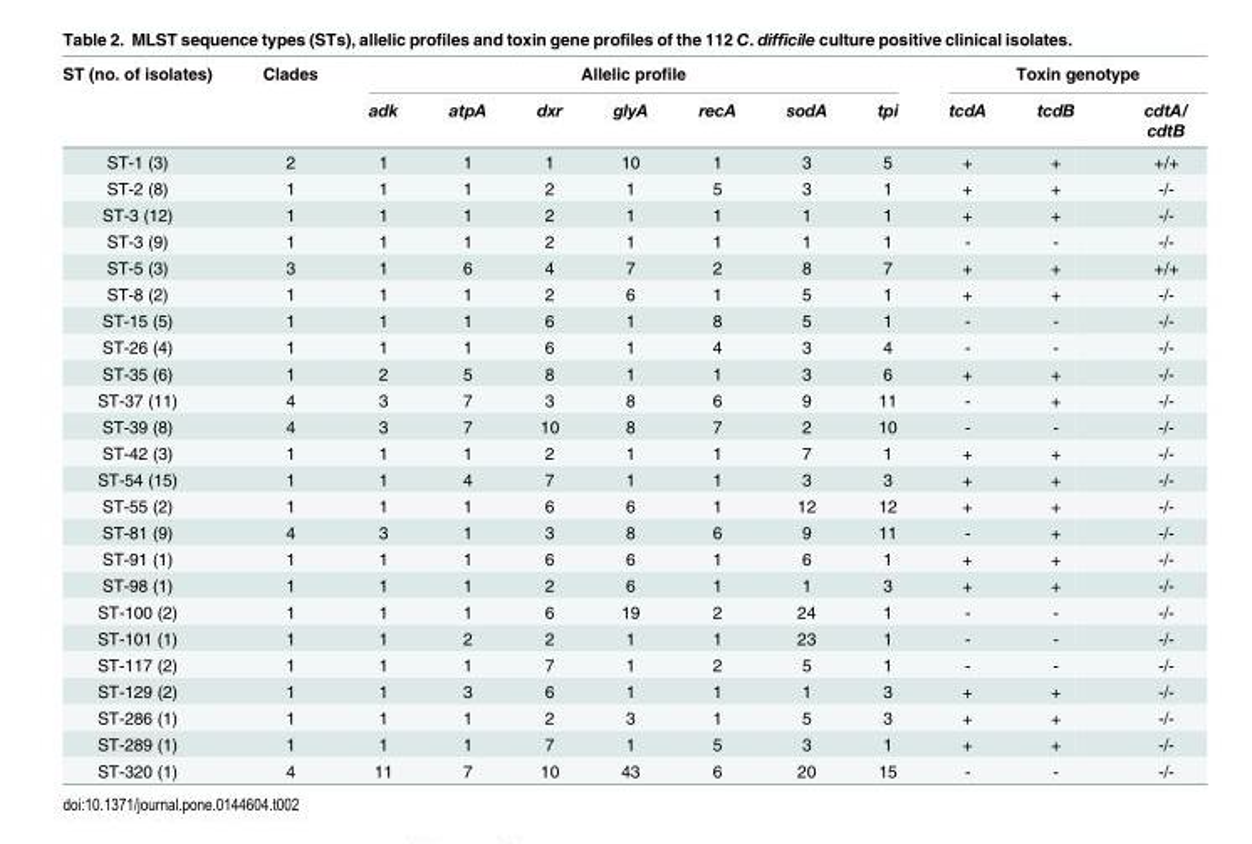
<table><thead><tr><td rowspan="2">ST (no. of isolates)</td><td rowspan="2">Clades</td><td colspan="7">Allelic profile</td><td colspan="3">Toxin genotype</td></tr><tr><td>adk</td><td>atpA</td><td>dxr</td><td>glyA</td><td>recA</td><td>sodA</td><td>tpi</td><td>tcdA</td><td>tcdB</td><td>cdtA/ cdtB</td></tr></thead><tbody><tr><td>ST-1 (3)</td><td>2</td><td>1</td><td>1</td><td>1</td><td>10</td><td>1</td><td>3</td><td>5</td><td>+</td><td>+</td><td>+/+</td></tr><tr><td>ST-2 (8)</td><td>1</td><td>1</td><td>1</td><td>2</td><td>1</td><td>5</td><td>3</td><td>1</td><td>+</td><td>+</td><td>-/-</td></tr><tr><td>ST-3 (12)</td><td>1</td><td>1</td><td>1</td><td>2</td><td>1</td><td>1</td><td>1</td><td>1</td><td>+</td><td>+</td><td>-/-</td></tr><tr><td>ST-3 (9)</td><td>1</td><td>1</td><td>1</td><td>2</td><td>1</td><td>1</td><td>1</td><td>1</td><td>-</td><td>-</td><td>-/-</td></tr><tr><td>ST-5 (3)</td><td>3</td><td>1</td><td>6</td><td>4</td><td>7</td><td>2</td><td>8</td><td>7</td><td>+</td><td>+</td><td>+/+</td></tr><tr><td>ST-8 (2)</td><td>1</td><td>1</td><td>1</td><td>2</td><td>6</td><td>1</td><td>5</td><td>1</td><td>+</td><td>+</td><td>-/-</td></tr><tr><td>ST-15 (5)</td><td>1</td><td>1</td><td>1</td><td>6</td><td>1</td><td>8</td><td>5</td><td>1</td><td>-</td><td>-</td><td>-/-</td></tr><tr><td>ST-26 (4)</td><td>1</td><td>1</td><td>1</td><td>6</td><td>1</td><td>4</td><td>3</td><td>4</td><td>-</td><td>-</td><td>-/-</td></tr><tr><td>ST-35 (6)</td><td>1</td><td>2</td><td>5</td><td>8</td><td>1</td><td>1</td><td>3</td><td>6</td><td>+</td><td>+</td><td>-/-</td></tr><tr><td>ST-37 (11)</td><td>4</td><td>3</td><td>7</td><td>3</td><td>8</td><td>6</td><td>9</td><td>11</td><td>-</td><td>+</td><td>-/-</td></tr><tr><td>ST-39 (8)</td><td>4</td><td>3</td><td>7</td><td>10</td><td>8</td><td>7</td><td>2</td><td>10</td><td>-</td><td>-</td><td>-/-</td></tr><tr><td>ST-42 (3)</td><td>1</td><td>1</td><td>1</td><td>2</td><td>1</td><td>1</td><td>7</td><td>1</td><td>+</td><td>+</td><td>-/-</td></tr><tr><td>ST-54 (15)</td><td>1</td><td>1</td><td>4</td><td>7</td><td>1</td><td>1</td><td>3</td><td>3</td><td>+</td><td>+</td><td>-/-</td></tr><tr><td>ST-55 (2)</td><td>1</td><td>1</td><td>1</td><td>6</td><td>6</td><td>1</td><td>12</td><td>12</td><td>+</td><td>+</td><td>-/-</td></tr><tr><td>ST-81 (9)</td><td>4</td><td>3</td><td>1</td><td>3</td><td>8</td><td>6</td><td>9</td><td>11</td><td>-</td><td>+</td><td>-/-</td></tr><tr><td>ST-91 (1)</td><td>1</td><td>1</td><td>1</td><td>6</td><td>6</td><td>1</td><td>6</td><td>1</td><td>+</td><td>+</td><td>-/-</td></tr><tr><td>ST-98 (1)</td><td>1</td><td>1</td><td>1</td><td>2</td><td>6</td><td>1</td><td>1</td><td>3</td><td>+</td><td>+</td><td>-/-</td></tr><tr><td>ST-100 (2)</td><td>1</td><td>1</td><td>1</td><td>6</td><td>19</td><td>2</td><td>24</td><td>1</td><td>-</td><td>-</td><td>-/-</td></tr><tr><td>ST-101 (1)</td><td>1</td><td>1</td><td>2</td><td>2</td><td>1</td><td>1</td><td>23</td><td>1</td><td>-</td><td>-</td><td>-/-</td></tr><tr><td>ST-117 (2)</td><td>1</td><td>1</td><td>1</td><td>7</td><td>1</td><td>2</td><td>5</td><td>1</td><td>-</td><td>-</td><td>-/-</td></tr><tr><td>ST-129 (2)</td><td>1</td><td>1</td><td>3</td><td>6</td><td>1</td><td>1</td><td>1</td><td>3</td><td>+</td><td>+</td><td>-/-</td></tr><tr><td>ST-286 (1)</td><td>1</td><td>1</td><td>1</td><td>2</td><td>3</td><td>1</td><td>5</td><td>3</td><td>+</td><td>+</td><td>-/-</td></tr><tr><td>ST-289 (1)</td><td>1</td><td>1</td><td>1</td><td>7</td><td>1</td><td>5</td><td>3</td><td>1</td><td>+</td><td>+</td><td>-/-</td></tr><tr><td>ST-320 (1)</td><td>4</td><td>11</td><td>7</td><td>10</td><td>43</td><td>6</td><td>20</td><td>15</td><td>-</td><td>-</td><td>-/-</td></tr></tbody></table>